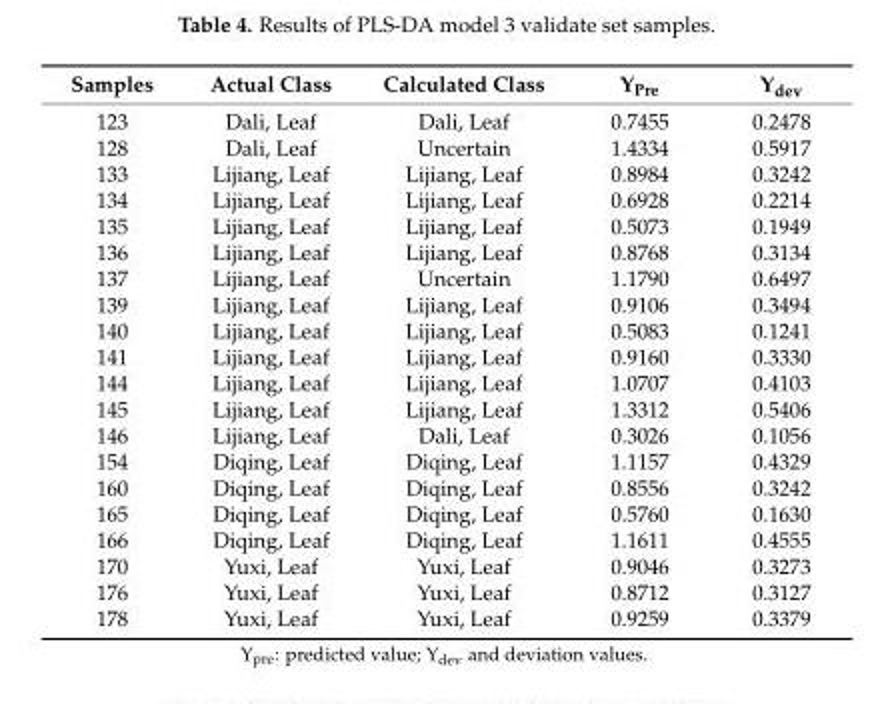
<table><thead><tr><td>Samples</td><td>Actual Class</td><td>Calculated Class</td><td>Y<sub>Pre</sub></td><td>Y<sub>dev</sub></td></tr></thead><tbody><tr><td>123</td><td>Dali, Leaf</td><td>Dali, Leaf</td><td>0.7455</td><td>0.2478</td></tr><tr><td>128</td><td>Dali, Leaf</td><td>Uncertain</td><td>1.4334</td><td>0.5917</td></tr><tr><td>133</td><td>Lijiang, Leaf</td><td>Lijiang, Leaf</td><td>0.8984</td><td>0.3242</td></tr><tr><td>134</td><td>Lijiang, Leaf</td><td>Lijiang, Leaf</td><td>0.6928</td><td>0.2214</td></tr><tr><td>135</td><td>Lijiang, Leaf</td><td>Lijiang, Leaf</td><td>0.5073</td><td>0.1949</td></tr><tr><td>136</td><td>Lijiang, Leaf</td><td>Lijiang, Leaf</td><td>0.8768</td><td>0.3134</td></tr><tr><td>137</td><td>Lijiang, Leaf</td><td>Uncertain</td><td>1.1790</td><td>0.6497</td></tr><tr><td>139</td><td>Lijiang, Leaf</td><td>Lijiang, Leaf</td><td>0.9106</td><td>0.3494</td></tr><tr><td>140</td><td>Lijiang, Leaf</td><td>Lijiang, Leaf</td><td>0.5083</td><td>0.1241</td></tr><tr><td>141</td><td>Lijiang, Leaf</td><td>Lijiang, Leaf</td><td>0.9160</td><td>0.3330</td></tr><tr><td>144</td><td>Lijiang, Leaf</td><td>Lijiang, Leaf</td><td>1.0707</td><td>0.4103</td></tr><tr><td>145</td><td>Lijiang, Leaf</td><td>Lijiang, Leaf</td><td>1.3312</td><td>0.5406</td></tr><tr><td>146</td><td>Lijiang, Leaf</td><td>Dali, Leaf</td><td>0.3026</td><td>0.1056</td></tr><tr><td>154</td><td>Diqing, Leaf</td><td>Diqing, Leaf</td><td>1.1157</td><td>0.4329</td></tr><tr><td>160</td><td>Diqing, Leaf</td><td>Diqing, Leaf</td><td>0.8556</td><td>0.3242</td></tr><tr><td>165</td><td>Diqing, Leaf</td><td>Diqing, Leaf</td><td>0.5760</td><td>0.1630</td></tr><tr><td>166</td><td>Diqing, Leaf</td><td>Diqing, Leaf</td><td>1.1611</td><td>0.4555</td></tr><tr><td>170</td><td>Yuxi, Leaf</td><td>Yuxi, Leaf</td><td>0.9046</td><td>0.3273</td></tr><tr><td>176</td><td>Yuxi, Leaf</td><td>Yuxi, Leaf</td><td>0.8712</td><td>0.3127</td></tr><tr><td>178</td><td>Yuxi, Leaf</td><td>Yuxi, Leaf</td><td>0.9259</td><td>0.3379</td></tr></tbody></table>